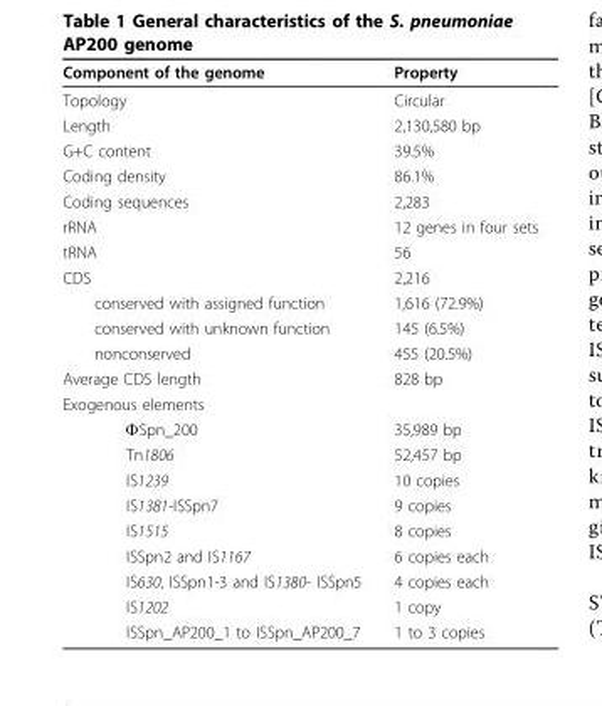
<table><thead><tr><td>Component of the genome</td><td>Property</td></tr></thead><tbody><tr><td>Topology</td><td>Circular</td></tr><tr><td>Length</td><td>2,130,580 bp</td></tr><tr><td>G+C content</td><td>39.5%</td></tr><tr><td>Coding density</td><td>86.1%</td></tr><tr><td>Coding sequences</td><td>2,283</td></tr><tr><td>rRNA</td><td>12 genes in four sets</td></tr><tr><td>tRNA</td><td>56</td></tr><tr><td>CDS</td><td>2,216</td></tr><tr><td>conserved with assigned function</td><td>1,616 (72.9%)</td></tr><tr><td>conserved with unknown function</td><td>145 (6.5%)</td></tr><tr><td>nonconserved</td><td>455 (20.5%)</td></tr><tr><td>Average CDS length</td><td>828 bp</td></tr><tr><td colspan="2">Exogenous elements</td></tr><tr><td>ΦSpn_200</td><td>35,989 bp</td></tr><tr><td>Tn1806</td><td>52,457 bp</td></tr><tr><td>IS1239</td><td>10 copies</td></tr><tr><td>IS1381-ISSpn7</td><td>9 copies</td></tr><tr><td>IS1515</td><td>8 copies</td></tr><tr><td>ISSpn2 and IS1167</td><td>6 copies each</td></tr><tr><td>IS630, ISSpn1-3 and IS1380- ISSpn5</td><td>4 copies each</td></tr><tr><td>IS1202</td><td>1 copy</td></tr><tr><td>ISSpn_AP200_1 to ISSpn_AP200_7</td><td>1 to 3 copies</td></tr></tbody></table>